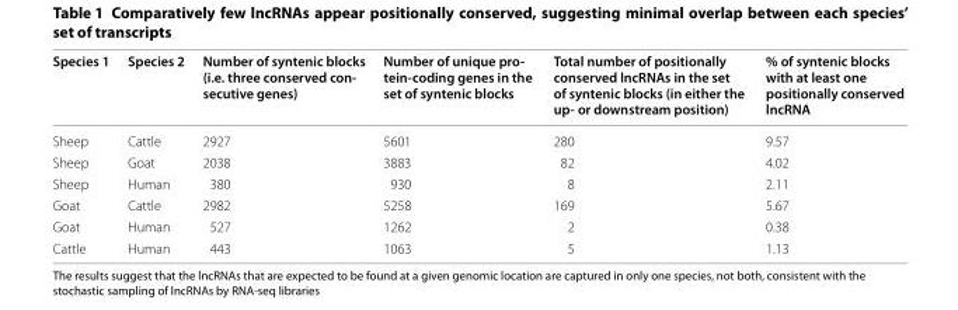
<table><thead><tr><td>Species 1</td><td>Species 2</td><td>Number of syntenic blocks (i.e. three conserved con‑ secutive genes)</td><td>Number of unique pro‑ tein‑coding genes in the set of syntenic blocks</td><td>Total number of positionally conserved lncRNAs in the set of syntenic blocks (in either the up‑ or downstream position)</td><td>% of syntenic blocks with at least one positionally conserved lncRNA</td></tr></thead><tbody><tr><td>Sheep</td><td>Cattle</td><td>2927</td><td>5601</td><td>280</td><td>9.57</td></tr><tr><td>Sheep</td><td>Goat</td><td>2038</td><td>3883</td><td>82</td><td>4.02</td></tr><tr><td>Sheep</td><td>Human</td><td>380</td><td>930</td><td>8</td><td>2.11</td></tr><tr><td>Goat</td><td>Cattle</td><td>2982</td><td>5258</td><td>169</td><td>5.67</td></tr><tr><td>Goat</td><td>Human</td><td>527</td><td>1262</td><td>2</td><td>0.38</td></tr><tr><td>Cattle</td><td>Human</td><td>443</td><td>1063</td><td>5</td><td>1.13</td></tr></tbody></table>